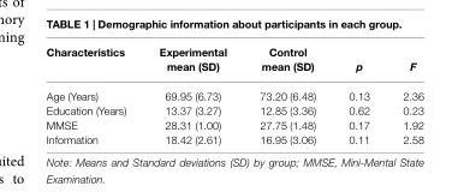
<table><thead><tr><td>Characteristics</td><td>Experimental mean (SD)</td><td>Control mean (SD)</td><td>p</td><td>F</td></tr></thead><tbody><tr><td>Age (Years)</td><td>69.95 (6.73)</td><td>73.20 (6.48)</td><td>0.13</td><td>2.36</td></tr><tr><td>Education (Years)</td><td>13.37 (3.27)</td><td>12.85 (3.36)</td><td>0.62</td><td>0.23</td></tr><tr><td>MMSE</td><td>28.31 (1.00)</td><td>27.75 (1.48)</td><td>0.17</td><td>1.92</td></tr><tr><td>Information</td><td>18.42 (2.61)</td><td>16.95 (3.06)</td><td>0.11</td><td>2.58</td></tr></tbody></table>